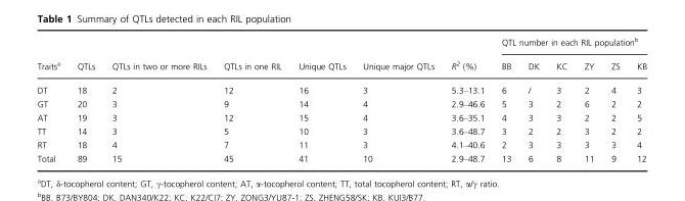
<table><thead><tr><td rowspan="2">Traits<sup>a</sup></td><td rowspan="2">QTLs</td><td rowspan="2">QTLs in two or more RILs</td><td rowspan="2">QTLs in one RIL</td><td rowspan="2">Unique QTLs</td><td rowspan="2">Unique major QTLs</td><td rowspan="2">R<sup>2</sup> (%)</td><td colspan="6">QTL number in each RIL population<sup>b</sup></td></tr><tr><td>BB</td><td>DK</td><td>KC</td><td>ZY</td><td>ZS</td><td>KB</td></tr></thead><tbody><tr><td>DT</td><td>18</td><td>2</td><td>12</td><td>16</td><td>3</td><td>5.3–13.1</td><td>6</td><td>/</td><td>3</td><td>2</td><td>4</td><td>3</td></tr><tr><td>GT</td><td>20</td><td>3</td><td>9</td><td>14</td><td>4</td><td>2.9–46.6</td><td>5</td><td>3</td><td>2</td><td>6</td><td>2</td><td>2</td></tr><tr><td>AT</td><td>19</td><td>3</td><td>12</td><td>15</td><td>4</td><td>3.6–35.1</td><td>4</td><td>3</td><td>3</td><td>2</td><td>2</td><td>5</td></tr><tr><td>TT</td><td>14</td><td>3</td><td>5</td><td>10</td><td>3</td><td>3.6–48.7</td><td>3</td><td>2</td><td>2</td><td>3</td><td>2</td><td>2</td></tr><tr><td>RT</td><td>18</td><td>4</td><td>7</td><td>11</td><td>3</td><td>4.1–40.6</td><td>2</td><td>3</td><td>3</td><td>3</td><td>3</td><td>4</td></tr><tr><td>Total</td><td>89</td><td>15</td><td>45</td><td>41</td><td>10</td><td>2.9–48.7</td><td>13</td><td>6</td><td>8</td><td>11</td><td>9</td><td>12</td></tr></tbody></table>